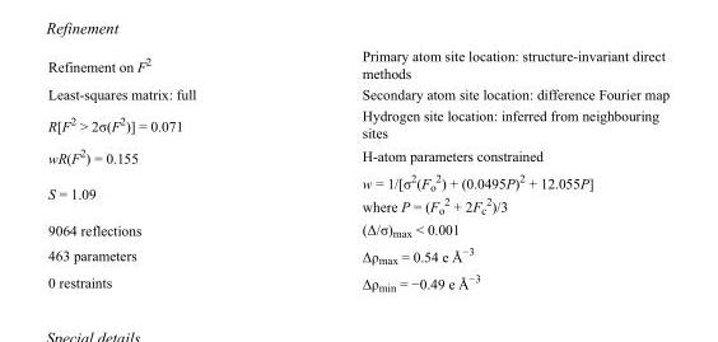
<table><tbody><tr><td>Refinement on F<sup>2</sup></td><td>Primary atom site location: structure-invariant direct methods</td></tr><tr><td>Least-squares matrix: full</td><td>Secondary atom site location: difference Fourier map</td></tr><tr><td>R[F<sup>2</sup> &gt; 2σ(F<sup>2</sup>)] = 0.071</td><td>Hydrogen site location: inferred from neighbouring sites</td></tr><tr><td>wR(F<sup>2</sup>) = 0.155</td><td>H-atom parameters constrained</td></tr><tr><td>S = 1.09</td><td>w = 1/[σ<sup>2</sup>(F<sub>o</sub> <sup>2</sup>) + (0.0495P)<sup>2</sup> + 12.055P] where P = (F<sub>o</sub> <sup>2</sup> + 2F<sub>c</sub> <sup>2</sup>)/3</td></tr><tr><td>9064 reflections</td><td>(Δ/σ)<sub>max</sub> &lt; 0.001</td></tr><tr><td>463 parameters</td><td>Δρ<sub>max</sub> = 0.54 e Å<sup>−3</sup></td></tr><tr><td>0 restraints</td><td>Δρ<sub>min</sub> = −0.49 e Å<sup>−3</sup></td></tr></tbody></table>